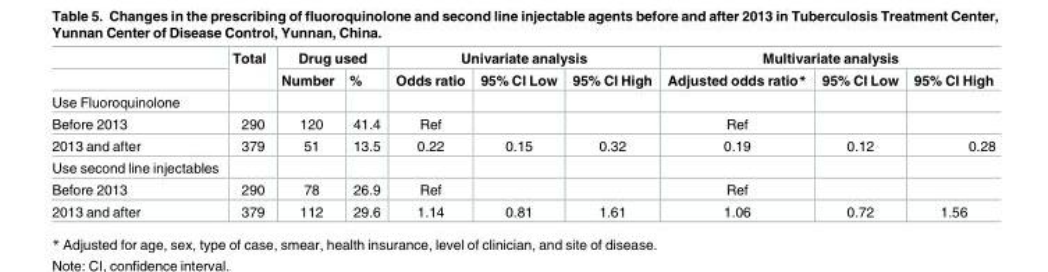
<table><thead><tr><td rowspan="2"></td><td rowspan="2">Total</td><td colspan="2">Drug used</td><td colspan="3">Univariate analysis</td><td colspan="3">Multivariate analysis</td></tr><tr><td>Number</td><td>%</td><td>Odds ratio</td><td>95% CI Low</td><td>95% CI High</td><td>Adjusted odds ratio*</td><td>95% CI Low</td><td>95% CI High</td></tr></thead><tbody><tr><td colspan="10">Use Fluoroquinolone</td></tr><tr><td>Before 2013</td><td>290</td><td>120</td><td>41.4</td><td>Ref</td><td></td><td></td><td>Ref</td><td></td><td></td></tr><tr><td>2013 and after</td><td>379</td><td>51</td><td>13.5</td><td>0.22</td><td>0.15</td><td>0.32</td><td>0.19</td><td>0.12</td><td>0.28</td></tr><tr><td colspan="10">Use second line injectables</td></tr><tr><td>Before 2013</td><td>290</td><td>78</td><td>26.9</td><td>Ref</td><td></td><td></td><td>Ref</td><td></td><td></td></tr><tr><td>2013 and after</td><td>379</td><td>112</td><td>29.6</td><td>1.14</td><td>0.81</td><td>1.61</td><td>1.06</td><td>0.72</td><td>1.56</td></tr></tbody></table>